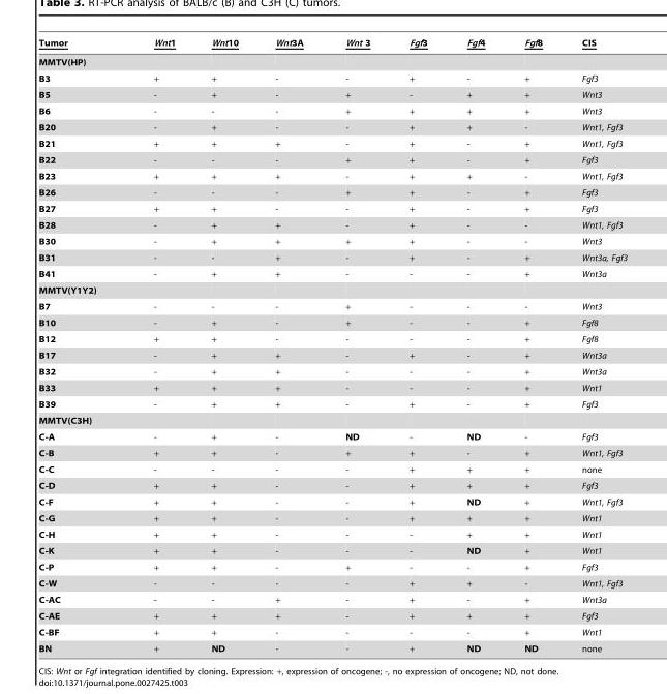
<table><thead><tr><td>Tumor</td><td>Wnt1</td><td>Wnt10</td><td>Wnt3A</td><td>Wnt 3</td><td>Fgf3</td><td>Fgf4</td><td>Fgf8</td><td>CIS</td></tr></thead><tbody><tr><td colspan="9">MMTV(HP)</td></tr><tr><td>B3</td><td>+</td><td>+</td><td>-</td><td>-</td><td>+</td><td>-</td><td>+</td><td>Fgf3</td></tr><tr><td>B5</td><td>-</td><td>+</td><td>-</td><td>+</td><td>-</td><td>+</td><td>+</td><td>Wnt3</td></tr><tr><td>B6</td><td>-</td><td>-</td><td>-</td><td>+</td><td>+</td><td>+</td><td>+</td><td>Wnt3</td></tr><tr><td>B20</td><td>-</td><td>+</td><td>-</td><td>-</td><td>+</td><td>+</td><td>-</td><td>Wnt1, Fgf3</td></tr><tr><td>B21</td><td>+</td><td>+</td><td>+</td><td>-</td><td>+</td><td>-</td><td>+</td><td>Wnt1, Fgf3</td></tr><tr><td>B22</td><td>-</td><td>-</td><td>-</td><td>+</td><td>+</td><td>-</td><td>+</td><td>Fgf3</td></tr><tr><td>B23</td><td>+</td><td>+</td><td>+</td><td>-</td><td>+</td><td>+</td><td>-</td><td>Wnt1, Fgf3</td></tr><tr><td>B26</td><td>-</td><td>-</td><td>-</td><td>+</td><td>+</td><td>-</td><td>+</td><td>Fgf3</td></tr><tr><td>B27</td><td>+</td><td>+</td><td>-</td><td>-</td><td>+</td><td>-</td><td>+</td><td>Fgf3</td></tr><tr><td>B28</td><td>-</td><td>+</td><td>+</td><td>-</td><td>+</td><td>-</td><td>-</td><td>Wnt1, Fgf3</td></tr><tr><td>B30</td><td>-</td><td>+</td><td>+</td><td>+</td><td>+</td><td>-</td><td>-</td><td>Wnt3</td></tr><tr><td>B31</td><td>-</td><td>-</td><td>+</td><td>-</td><td>+</td><td>-</td><td>+</td><td>Wnt3a, Fgf3</td></tr><tr><td>B41</td><td>-</td><td>+</td><td>+</td><td>-</td><td>-</td><td>-</td><td>+</td><td>Wnt3a</td></tr><tr><td colspan="9">MMTV(Y1Y2)</td></tr><tr><td>B7</td><td>-</td><td>-</td><td>-</td><td>+</td><td>-</td><td>-</td><td>-</td><td>Wnt3</td></tr><tr><td>B10</td><td>-</td><td>+</td><td>-</td><td>+</td><td>-</td><td>-</td><td>+</td><td>Fgf8</td></tr><tr><td>B12</td><td>+</td><td>+</td><td>-</td><td>-</td><td>-</td><td>-</td><td>+</td><td>Fgf8</td></tr><tr><td>B17</td><td>-</td><td>+</td><td>+</td><td>-</td><td>+</td><td>-</td><td>+</td><td>Wnt3a</td></tr><tr><td>B32</td><td>-</td><td>+</td><td>+</td><td>-</td><td>-</td><td>-</td><td>+</td><td>Wnt3a</td></tr><tr><td>B33</td><td>+</td><td>+</td><td>+</td><td>-</td><td>-</td><td>-</td><td>+</td><td>Wnt1</td></tr><tr><td>B39</td><td>-</td><td>+</td><td>+</td><td>-</td><td>+</td><td>-</td><td>+</td><td>Fgf3</td></tr><tr><td colspan="9">MMTV(C3H)</td></tr><tr><td>C-A</td><td>-</td><td>+</td><td>-</td><td>ND</td><td>-</td><td>ND</td><td>-</td><td>Fgf3</td></tr><tr><td>C-B</td><td>+</td><td>+</td><td>-</td><td>+</td><td>+</td><td>-</td><td>+</td><td>Wnt1, Fgf3</td></tr><tr><td>C-C</td><td>-</td><td>-</td><td>-</td><td>-</td><td>+</td><td>+</td><td>+</td><td>none</td></tr><tr><td>C-D</td><td>+</td><td>+</td><td>-</td><td>-</td><td>+</td><td>+</td><td>+</td><td>Fgf3</td></tr><tr><td>C-F</td><td>+</td><td>+</td><td>-</td><td>-</td><td>+</td><td>ND</td><td>+</td><td>Wnt1, Fgf3</td></tr><tr><td>C-G</td><td>+</td><td>+</td><td>-</td><td>-</td><td>+</td><td>+</td><td>+</td><td>Wnt1</td></tr><tr><td>C-H</td><td>+</td><td>+</td><td>-</td><td>-</td><td>-</td><td>+</td><td>+</td><td>Wnt1</td></tr><tr><td>C-K</td><td>+</td><td>+</td><td>-</td><td>-</td><td>-</td><td>ND</td><td>+</td><td>Wnt1</td></tr><tr><td>C-P</td><td>+</td><td>+</td><td>-</td><td>+</td><td>-</td><td>-</td><td>+</td><td>Fgf3</td></tr><tr><td>C-W</td><td>-</td><td>-</td><td>-</td><td>-</td><td>+</td><td>+</td><td>-</td><td>Wnt1, Fgf3</td></tr><tr><td>C-AC</td><td>-</td><td>-</td><td>+</td><td>-</td><td>+</td><td>-</td><td>+</td><td>Wnt3a</td></tr><tr><td>C-AE</td><td>+</td><td>+</td><td>+</td><td>-</td><td>+</td><td>+</td><td>+</td><td>Fgf3</td></tr><tr><td>C-BF</td><td>+</td><td>+</td><td>-</td><td>-</td><td>-</td><td>-</td><td>+</td><td>Wnt1</td></tr><tr><td>BN</td><td>+</td><td>ND</td><td>-</td><td>-</td><td>+</td><td>ND</td><td>ND</td><td>none</td></tr></tbody></table>